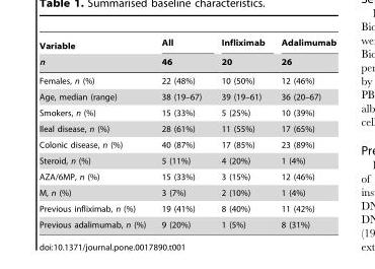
<table><thead><tr><td rowspan="2">Variable n</td><td rowspan="2">All 46</td><td rowspan="2">Infliximab 20</td><td rowspan="2">Adalimumab 26</td></tr><tr></tr></thead><tbody><tr><td>Females, n (%)</td><td>22 (48%)</td><td>10 (50%)</td><td>12 (46%)</td></tr><tr><td>Age, median (range)</td><td>38 (19–67)</td><td>39 (19–61)</td><td>36 (20–67)</td></tr><tr><td>Smokers, n (%)</td><td>15 (33%)</td><td>5 (25%)</td><td>10 (39%)</td></tr><tr><td>Ileal disease, n (%)</td><td>28 (61%)</td><td>11 (55%)</td><td>17 (65%)</td></tr><tr><td>Colonic disease, n (%)</td><td>40 (87%)</td><td>17 (85%)</td><td>23 (89%)</td></tr><tr><td>Steroid, n (%)</td><td>5 (11%)</td><td>4 (20%)</td><td>1 (4%)</td></tr><tr><td>AZA/6MP, n (%)</td><td>15 (33%)</td><td>3 (15%)</td><td>12 (46%)</td></tr><tr><td>M, n (%)</td><td>3 (7%)</td><td>2 (10%)</td><td>1 (4%)</td></tr><tr><td>Previous infliximab, n (%)</td><td>19 (41%)</td><td>8 (40%)</td><td>11 (42%)</td></tr><tr><td>Previous adalimumab, n (%)</td><td>9 (20%)</td><td>1 (5%)</td><td>8 (31%)</td></tr></tbody></table>